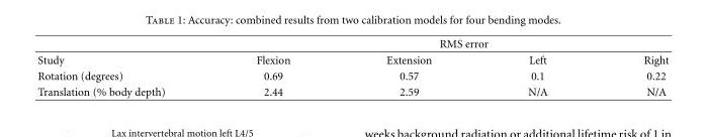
<table><thead><tr><td rowspan="2">Study</td><td colspan="4">RMS error</td></tr><tr><td>Flexion</td><td>Extension</td><td>Left</td><td>Right</td></tr></thead><tbody><tr><td>Rotation (degrees)</td><td>0.69</td><td>0.57</td><td>0.1</td><td>0.22</td></tr><tr><td>Translation (% body depth)</td><td>2.44</td><td>2.59</td><td>N/A</td><td>N/A</td></tr></tbody></table>